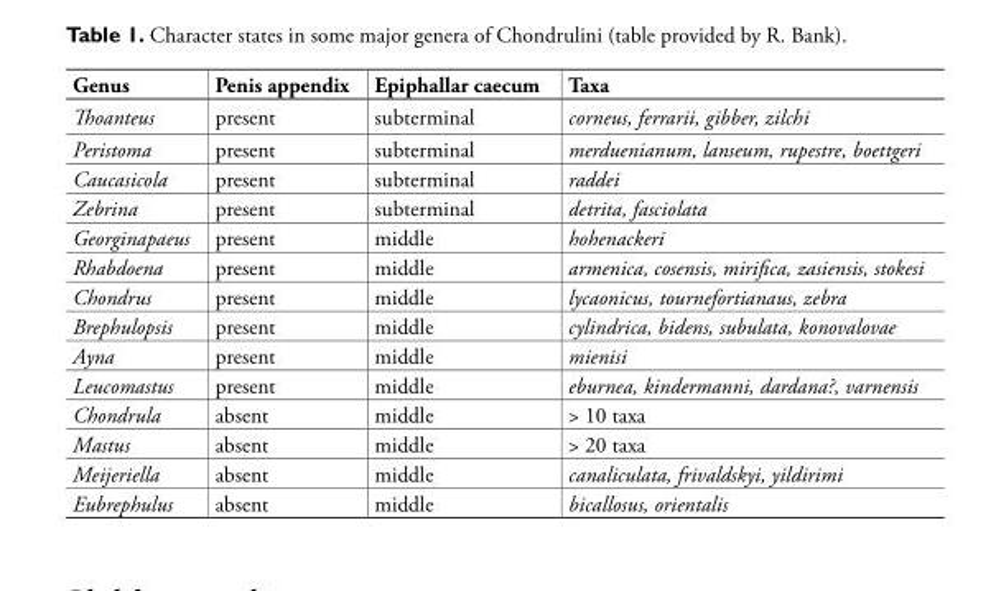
<table><tbody><tr><td>Genus</td><td>Penis appendix</td><td>Epiphallar caecum</td><td>Taxa</td></tr><tr><td>Thoanteus</td><td>present</td><td>subterminal</td><td>corneus, ferrarii, gibber, zilchi</td></tr><tr><td>Peristoma</td><td>present</td><td>subterminal</td><td>merduenianum, lanseum, rupestre, boettgeri</td></tr><tr><td>Caucasicola</td><td>present</td><td>subterminal</td><td>raddei</td></tr><tr><td>Zebrina</td><td>present</td><td>subterminal</td><td>detrita, fasciolata</td></tr><tr><td>Georginapaeus</td><td>present</td><td>middle</td><td>hohenackeri</td></tr><tr><td>Rhabdoena</td><td>present</td><td>middle</td><td>armenica, cosensis, mirifica, zasiensis, stokesi</td></tr><tr><td>Chondrus</td><td>present</td><td>middle</td><td>lycaonicus, tournefortianaus, zebra</td></tr><tr><td>Brephulopsis</td><td>present</td><td>middle</td><td>cylindrica, bidens, subulata, konovalovae</td></tr><tr><td>Ayna</td><td>present</td><td>middle</td><td>mienisi</td></tr><tr><td>Leucomastus</td><td>present</td><td>middle</td><td>eburnea, kindermanni, dardana?, varnensis</td></tr><tr><td>Chondrula</td><td>absent</td><td>middle</td><td>&gt; 10 taxa</td></tr><tr><td>Mastus</td><td>absent</td><td>middle</td><td>&gt; 20 taxa</td></tr><tr><td>Meijeriella</td><td>absent</td><td>middle</td><td>canaliculata, frivaldskyi, yildirimi</td></tr><tr><td>Eubrephulus</td><td>absent</td><td>middle</td><td>bicallosus, orientalis</td></tr></tbody></table>